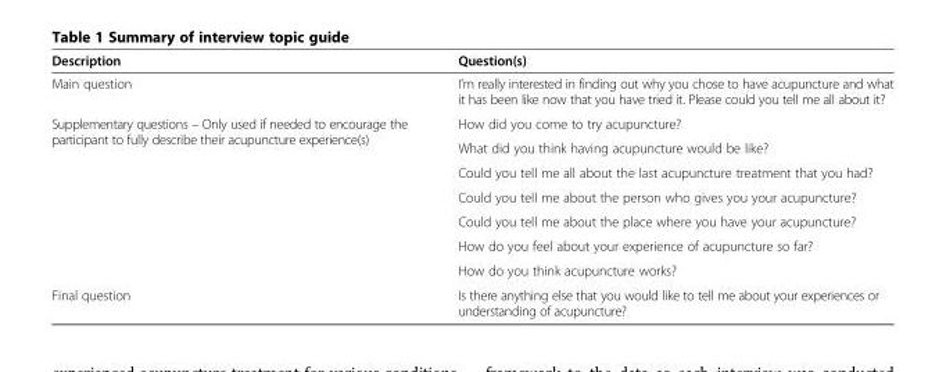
<table><thead><tr><td>Description</td><td>Question(s)</td></tr></thead><tbody><tr><td>Main question</td><td>I’m really interested in finding out why you chose to have acupuncture and what it has been like now that you have tried it. Please could you tell me all about it?</td></tr><tr><td rowspan="7">Supplementary questions – Only used if needed to encourage the participant to fully describe their acupuncture experience(s)</td><td>How did you come to try acupuncture?</td></tr><tr><td>What did you think having acupuncture would be like?</td></tr><tr><td>Could you tell me all about the last acupuncture treatment that you had?</td></tr><tr><td>Could you tell me about the person who gives you your acupuncture?</td></tr><tr><td>Could you tell me about the place where you have your acupuncture?</td></tr><tr><td>How do you feel about your experience of acupuncture so far?</td></tr><tr><td>How do you think acupuncture works?</td></tr><tr><td>Final question</td><td>Is there anything else that you would like to tell me about your experiences or understanding of acupuncture?</td></tr></tbody></table>